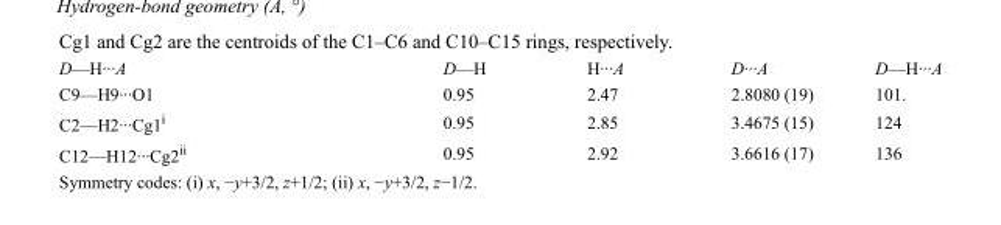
<table><tbody><tr><td>D—H···A</td><td>D—H</td><td>H···A</td><td>D···A</td><td>D—H···A</td></tr><tr><td>C9—H9···O1</td><td>0.95</td><td>2.47</td><td>2.8080 (19)</td><td>101.</td></tr><tr><td>C2—H2···Cg1<sup>i</sup></td><td>0.95</td><td>2.85</td><td>3.4675 (15)</td><td>124</td></tr><tr><td>C12—H12···Cg2<sup>ii</sup></td><td>0.95</td><td>2.92</td><td>3.6616 (17)</td><td>136</td></tr></tbody></table>